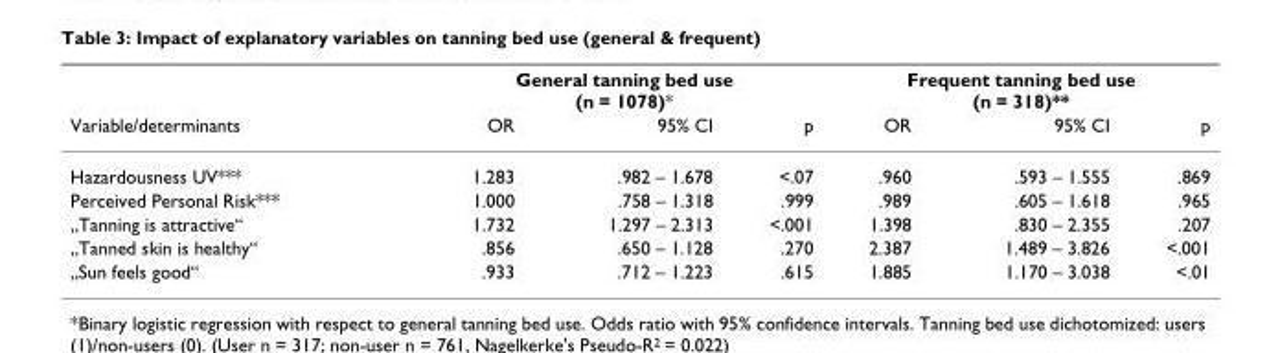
<table><thead><tr><td rowspan="2">Variable/determinants</td><td colspan="3">General tanning bed use (n = 1078)*</td><td colspan="3">Frequent tanning bed use (n = 318)**</td></tr><tr><td>OR</td><td>95% CI</td><td>p</td><td>OR</td><td>95% CI</td><td>p</td></tr></thead><tbody><tr><td>Hazardousness UV***</td><td>1.283</td><td>.982 – 1.678</td><td>&lt;.07</td><td>.960</td><td>.593 – 1.555</td><td>.869</td></tr><tr><td>Perceived Personal Risk***</td><td>1.000</td><td>.758 – 1.318</td><td>.999</td><td>.989</td><td>.605 – 1.618</td><td>.965</td></tr><tr><td>„Tanning is attractive“</td><td>1.732</td><td>1.297 – 2.313</td><td>&lt;.001</td><td>1.398</td><td>.830 – 2.355</td><td>.207</td></tr><tr><td>„Tanned skin is healthy“</td><td>.856</td><td>.650 – 1.128</td><td>.270</td><td>2.387</td><td>1.489 – 3.826</td><td>&lt;.001</td></tr><tr><td>„Sun feels good“</td><td>.933</td><td>.712 – 1.223</td><td>.615</td><td>1.885</td><td>1.170 – 3.038</td><td>&lt;.01</td></tr></tbody></table>